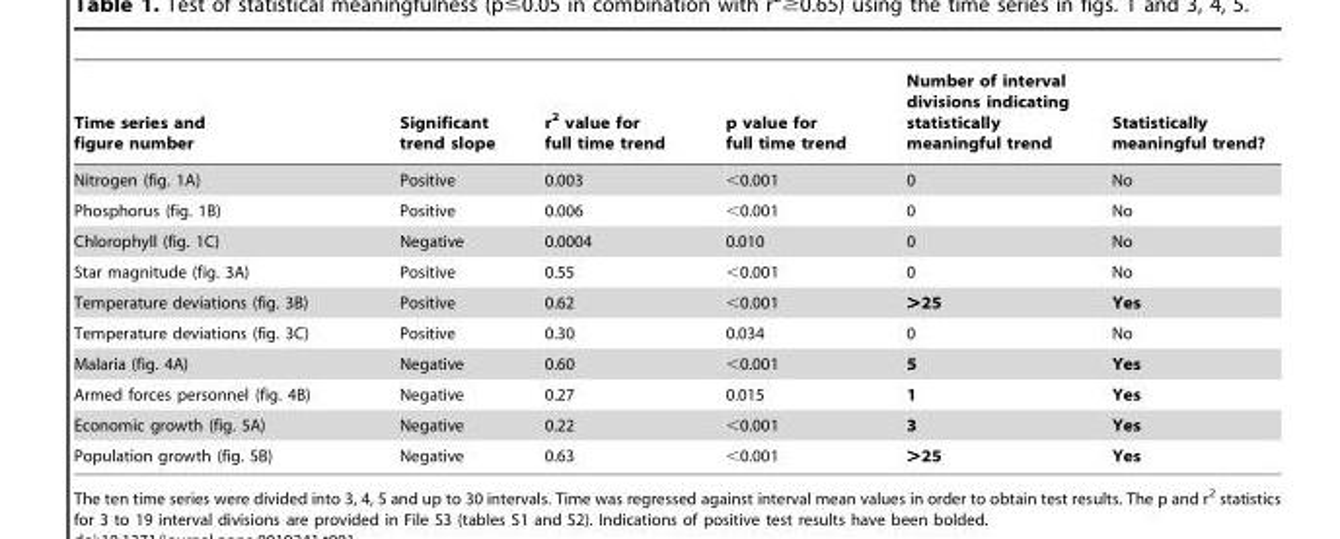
<table><thead><tr><td>Time series and figure number</td><td>Significant trend slope</td><td>r<sup>2</sup> value for full time trend</td><td>p value for full time trend</td><td>Number of interval divisions indicating statistically meaningful trend</td><td>Statistically meaningful trend?</td></tr></thead><tbody><tr><td>Nitrogen (fig. 1A)</td><td>Positive</td><td>0.003</td><td>&lt;0.001</td><td>0</td><td>No</td></tr><tr><td>Phosphorus (fig. 1B)</td><td>Positive</td><td>0.006</td><td>&lt;0.001</td><td>0</td><td>No</td></tr><tr><td>Chlorophyll (fig. 1C)</td><td>Negative</td><td>0.0004</td><td>0.010</td><td>0</td><td>No</td></tr><tr><td>Star magnitude (fig. 3A)</td><td>Positive</td><td>0.55</td><td>&lt;0.001</td><td>0</td><td>No</td></tr><tr><td>Temperature deviations (fig. 3B)</td><td>Positive</td><td>0.62</td><td>&lt;0.001</td><td>&gt;25</td><td>Yes</td></tr><tr><td>Temperature deviations (fig. 3C)</td><td>Positive</td><td>0.30</td><td>0.034</td><td>0</td><td>No</td></tr><tr><td>Malaria (fig. 4A)</td><td>Negative</td><td>0.60</td><td>&lt;0.001</td><td>5</td><td>Yes</td></tr><tr><td>Armed forces personnel (fig. 4B)</td><td>Negative</td><td>0.27</td><td>0.015</td><td>1</td><td>Yes</td></tr><tr><td>Economic growth (fig. 5A)</td><td>Negative</td><td>0.22</td><td>&lt;0.001</td><td>3</td><td>Yes</td></tr><tr><td>Population growth (fig. 5B)</td><td>Negative</td><td>0.63</td><td>&lt;0.001</td><td>&gt;25</td><td>Yes</td></tr></tbody></table>